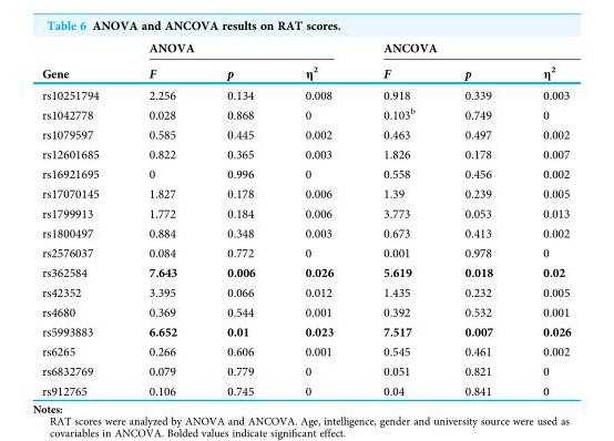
<table><thead><tr><td rowspan="2">Gene</td><td colspan="3">ANOVA</td><td colspan="3">ANCOVA</td></tr><tr><td>F</td><td>p</td><td>η<sup>2</sup></td><td>F</td><td>p</td><td>η<sup>2</sup></td></tr></thead><tbody><tr><td>rs10251794</td><td>2.256</td><td>0.134</td><td>0.008</td><td>0.918</td><td>0.339</td><td>0.003</td></tr><tr><td>rs1042778</td><td>0.028</td><td>0.868</td><td>0</td><td>0.103<sup>b</sup></td><td>0.749</td><td>0</td></tr><tr><td>rs1079597</td><td>0.585</td><td>0.445</td><td>0.002</td><td>0.463</td><td>0.497</td><td>0.002</td></tr><tr><td>rs12601685</td><td>0.822</td><td>0.365</td><td>0.003</td><td>1.826</td><td>0.178</td><td>0.007</td></tr><tr><td>rs16921695</td><td>0</td><td>0.996</td><td>0</td><td>0.558</td><td>0.456</td><td>0.002</td></tr><tr><td>rs17070145</td><td>1.827</td><td>0.178</td><td>0.006</td><td>1.39</td><td>0.239</td><td>0.005</td></tr><tr><td>rs1799913</td><td>1.772</td><td>0.184</td><td>0.006</td><td>3.773</td><td>0.053</td><td>0.013</td></tr><tr><td>rs1800497</td><td>0.884</td><td>0.348</td><td>0.003</td><td>0.673</td><td>0.413</td><td>0.002</td></tr><tr><td>rs2576037</td><td>0.084</td><td>0.772</td><td>0</td><td>0.001</td><td>0.978</td><td>0</td></tr><tr><td>rs362584</td><td>7.643</td><td>0.006</td><td>0.026</td><td>5.619</td><td>0.018</td><td>0.02</td></tr><tr><td>rs42352</td><td>3.395</td><td>0.066</td><td>0.012</td><td>1.435</td><td>0.232</td><td>0.005</td></tr><tr><td>rs4680</td><td>0.369</td><td>0.544</td><td>0.001</td><td>0.392</td><td>0.532</td><td>0.001</td></tr><tr><td>rs5993883</td><td>6.652</td><td>0.01</td><td>0.023</td><td>7.517</td><td>0.007</td><td>0.026</td></tr><tr><td>rs6265</td><td>0.266</td><td>0.606</td><td>0.001</td><td>0.545</td><td>0.461</td><td>0.002</td></tr><tr><td>rs6832769</td><td>0.079</td><td>0.779</td><td>0</td><td>0.051</td><td>0.821</td><td>0</td></tr><tr><td>rs912765</td><td>0.106</td><td>0.745</td><td>0</td><td>0.04</td><td>0.841</td><td>0</td></tr></tbody></table>